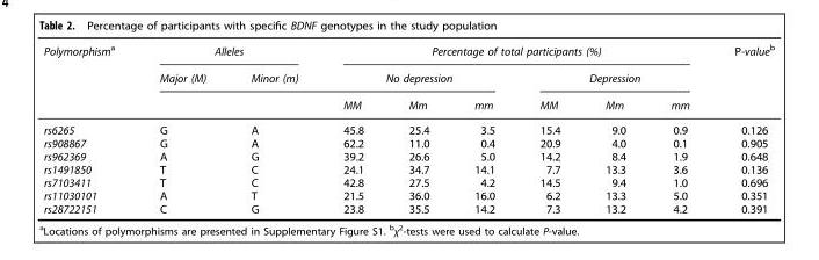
<table><thead><tr><td rowspan="3">Polymorphism<sup>a</sup></td><td colspan="2">Alleles</td><td colspan="6">Percentage of total participants (%)</td><td rowspan="3">P-value<sup>b</sup></td></tr><tr><td rowspan="2">Major (M)</td><td rowspan="2">Minor (m)</td><td colspan="3">No depression</td><td colspan="3">Depression</td></tr><tr><td>MM</td><td>Mm</td><td>mm</td><td>MM</td><td>Mm</td><td>mm</td></tr></thead><tbody><tr><td>rs6265</td><td>G</td><td>A</td><td>45.8</td><td>25.4</td><td>3.5</td><td>15.4</td><td>9.0</td><td>0.9</td><td>0.126</td></tr><tr><td>rs908867</td><td>G</td><td>A</td><td>62.2</td><td>11.0</td><td>0.4</td><td>20.9</td><td>4.0</td><td>0.1</td><td>0.905</td></tr><tr><td>rs962369</td><td>A</td><td>G</td><td>39.2</td><td>26.6</td><td>5.0</td><td>14.2</td><td>8.4</td><td>1.9</td><td>0.648</td></tr><tr><td>rs1491850</td><td>T</td><td>C</td><td>24.1</td><td>34.7</td><td>14.1</td><td>7.7</td><td>13.3</td><td>3.6</td><td>0.136</td></tr><tr><td>rs7103411</td><td>T</td><td>C</td><td>42.8</td><td>27.5</td><td>4.2</td><td>14.5</td><td>9.4</td><td>1.0</td><td>0.696</td></tr><tr><td>rs11030101</td><td>A</td><td>T</td><td>21.5</td><td>36.0</td><td>16.0</td><td>6.2</td><td>13.3</td><td>5.0</td><td>0.351</td></tr><tr><td>rs28722151</td><td>C</td><td>G</td><td>23.8</td><td>35.5</td><td>14.2</td><td>7.3</td><td>13.2</td><td>4.2</td><td>0.391</td></tr></tbody></table>